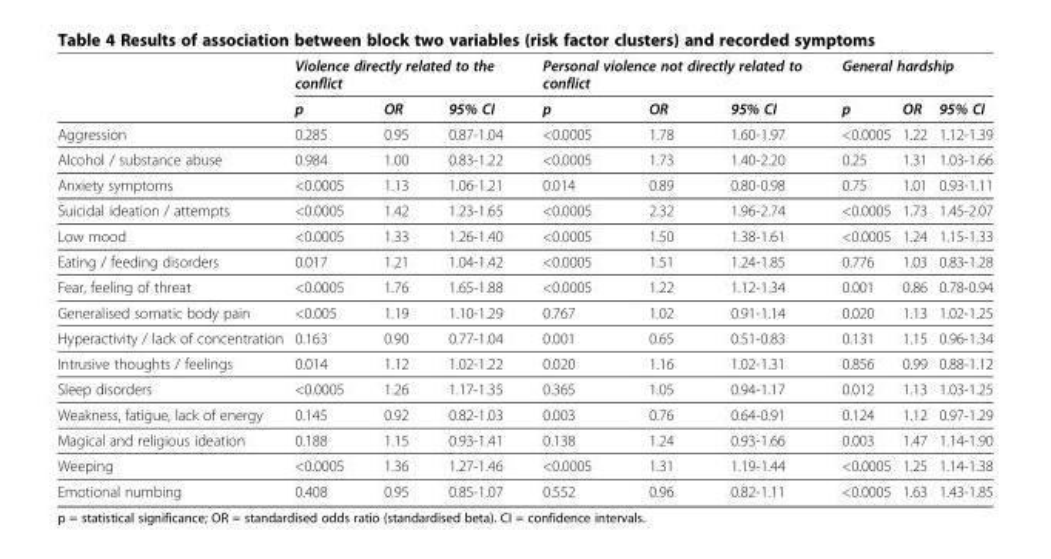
<table><thead><tr><td rowspan="2"></td><td colspan="3">Violence directly related to the conflict</td><td colspan="3">Personal violence not directly related to conflict</td><td colspan="3">General hardship</td></tr><tr><td>p</td><td>OR</td><td>95% CI</td><td>p</td><td>OR</td><td>95% CI</td><td>p</td><td>OR</td><td>95% CI</td></tr></thead><tbody><tr><td>Aggression</td><td>0.285</td><td>0.95</td><td>0.87-1.04</td><td>&lt;0.0005</td><td>1.78</td><td>1.60-1.97</td><td>&lt;0.0005</td><td>1.22</td><td>1.12-1.39</td></tr><tr><td>Alcohol / substance abuse</td><td>0.984</td><td>1.00</td><td>0.83-1.22</td><td>&lt;0.0005</td><td>1.73</td><td>1.40-2.20</td><td>0.25</td><td>1.31</td><td>1.03-1.66</td></tr><tr><td>Anxiety symptoms</td><td>&lt;0.0005</td><td>1.13</td><td>1.06-1.21</td><td>0.014</td><td>0.89</td><td>0.80-0.98</td><td>0.75</td><td>1.01</td><td>0.93-1.11</td></tr><tr><td>Suicidal ideation / attempts</td><td>&lt;0.0005</td><td>1.42</td><td>1.23-1.65</td><td>&lt;0.0005</td><td>2.32</td><td>1.96-2.74</td><td>&lt;0.0005</td><td>1.73</td><td>1.45-2.07</td></tr><tr><td>Low mood</td><td>&lt;0.0005</td><td>1.33</td><td>1.26-1.40</td><td>&lt;0.0005</td><td>1.50</td><td>1.38-1.61</td><td>&lt;0.0005</td><td>1.24</td><td>1.15-1.33</td></tr><tr><td>Eating / feeding disorders</td><td>0.017</td><td>1.21</td><td>1.04-1.42</td><td>&lt;0.0005</td><td>1.51</td><td>1.24-1.85</td><td>0.776</td><td>1.03</td><td>0.83-1.28</td></tr><tr><td>Fear, feeling of threat</td><td>&lt;0.0005</td><td>1.76</td><td>1.65-1.88</td><td>&lt;0.0005</td><td>1.22</td><td>1.12-1.34</td><td>0.001</td><td>0.86</td><td>0.78-0.94</td></tr><tr><td>Generalised somatic body pain</td><td>&lt;0.005</td><td>1.19</td><td>1.10-1.29</td><td>0.767</td><td>1.02</td><td>0.91-1.14</td><td>0.020</td><td>1.13</td><td>1.02-1.25</td></tr><tr><td>Hyperactivity / lack of concentration</td><td>0.163</td><td>0.90</td><td>0.77-1.04</td><td>0.001</td><td>0.65</td><td>0.51-0.83</td><td>0.131</td><td>1.15</td><td>0.96-1.34</td></tr><tr><td>Intrusive thoughts / feelings</td><td>0.014</td><td>1.12</td><td>1.02-1.22</td><td>0.020</td><td>1.16</td><td>1.02-1.31</td><td>0.856</td><td>0.99</td><td>0.88-1.12</td></tr><tr><td>Sleep disorders</td><td>&lt;0.0005</td><td>1.26</td><td>1.17-1.35</td><td>0.365</td><td>1.05</td><td>0.94-1.17</td><td>0.012</td><td>1.13</td><td>1.03-1.25</td></tr><tr><td>Weakness, fatigue, lack of energy</td><td>0.145</td><td>0.92</td><td>0.82-1.03</td><td>0.003</td><td>0.76</td><td>0.64-0.91</td><td>0.124</td><td>1.12</td><td>0.97-1.29</td></tr><tr><td>Magical and religious ideation</td><td>0.188</td><td>1.15</td><td>0.93-1.41</td><td>0.138</td><td>1.24</td><td>0.93-1.66</td><td>0.003</td><td>1.47</td><td>1.14-1.90</td></tr><tr><td>Weeping</td><td>&lt;0.0005</td><td>1.36</td><td>1.27-1.46</td><td>&lt;0.0005</td><td>1.31</td><td>1.19-1.44</td><td>&lt;0.0005</td><td>1.25</td><td>1.14-1.38</td></tr><tr><td>Emotional numbing</td><td>0.408</td><td>0.95</td><td>0.85-1.07</td><td>0.552</td><td>0.96</td><td>0.82-1.11</td><td>&lt;0.0005</td><td>1.63</td><td>1.43-1.85</td></tr></tbody></table>